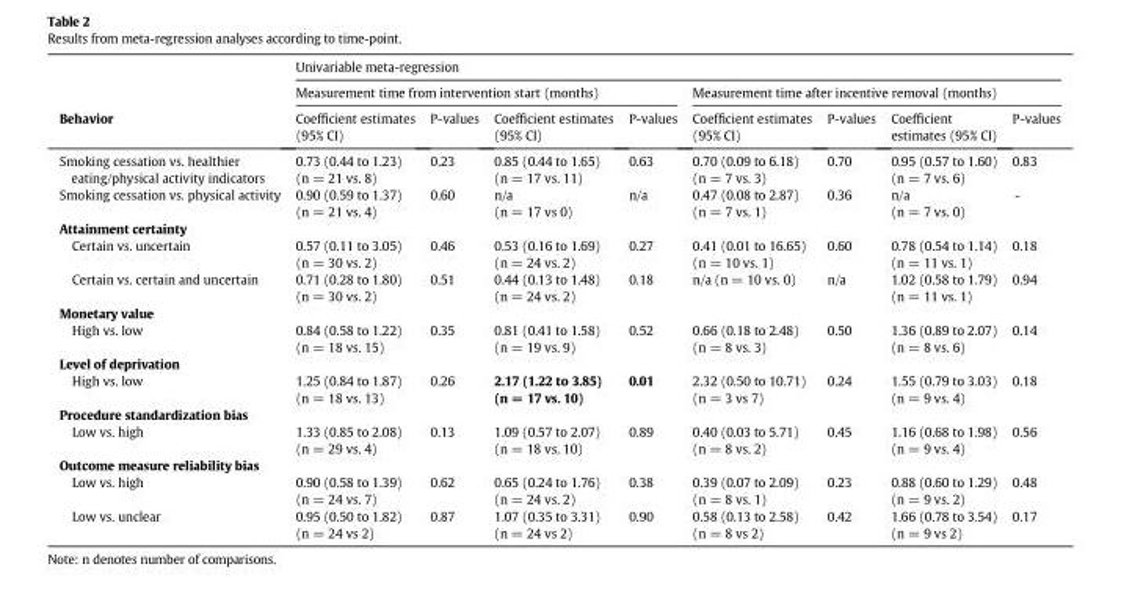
<table><thead><tr><td rowspan="3">Behavior</td><td colspan="8">Univariable meta-regression</td></tr><tr><td colspan="4">Measurement time from intervention start (months)</td><td colspan="4">Measurement time after incentive removal (months)</td></tr><tr><td>Coefficient estimates (95% CI)</td><td>P-values</td><td>Coefficient estimates (95% CI)</td><td>P-values</td><td>Coefficient estimates (95% CI)</td><td>P-values</td><td>Coefficient estimates (95% CI)</td><td>P-values</td></tr></thead><tbody><tr><td>Smoking cessation vs. healthier eating/physical activity indicators</td><td>0.73 (0.44 to 1.23) (n = 21 vs. 8)</td><td>0.23</td><td>0.85 (0.44 to 1.65) (n = 17 vs. 11)</td><td>0.63</td><td>0.70 (0.09 to 6.18) (n = 7 vs. 3)</td><td>0.70</td><td>0.95 (0.57 to 1.60) (n = 7 vs. 6)</td><td>0.83</td></tr><tr><td>Smoking cessation vs. physical activity</td><td>0.90 (0.59 to 1.37) (n = 21 vs. 4)</td><td>0.60</td><td>n/a (n = 17 vs 0)</td><td>n/a</td><td>0.47 (0.08 to 2.87) (n = 7 vs. 1)</td><td>0.36</td><td>n/a (n = 7 vs. 0)</td><td>-</td></tr><tr><td colspan="9">Attainment certainty</td></tr><tr><td>Certain vs. uncertain</td><td>0.57 (0.11 to 3.05) (n = 30 vs. 2)</td><td>0.46</td><td>0.53 (0.16 to 1.69) (n = 24 vs. 2)</td><td>0.27</td><td>0.41 (0.01 to 16.65) (n = 10 vs. 1)</td><td>0.60</td><td>0.78 (0.54 to 1.14) (n = 11 vs. 1)</td><td>0.18</td></tr><tr><td>Certain vs. certain and uncertain</td><td>0.71 (0.28 to 1.80) (n = 30 vs. 2)</td><td>0.51</td><td>0.44 (0.13 to 1.48) (n = 24 vs. 2)</td><td>0.18</td><td>n/a (n = 10 vs. 0)</td><td>n/a</td><td>1.02 (0.58 to 1.79) (n = 11 vs. 1)</td><td>0.94</td></tr><tr><td colspan="9">Monetary value</td></tr><tr><td>High vs. low</td><td>0.84 (0.58 to 1.22) (n = 18 vs. 15)</td><td>0.35</td><td>0.81 (0.41 to 1.58) (n = 19 vs. 9)</td><td>0.52</td><td>0.66 (0.18 to 2.48) (n = 8 vs. 3)</td><td>0.50</td><td>1.36 (0.89 to 2.07) (n = 8 vs. 6)</td><td>0.14</td></tr><tr><td colspan="9">Level of deprivation</td></tr><tr><td>High vs. low</td><td>1.25 (0.84 to 1.87) (n = 18 vs. 13)</td><td>0.26</td><td>2.17 (1.22 to 3.85) (n = 17 vs. 10)</td><td>0.01</td><td>2.32 (0.50 to 10.71) (n = 3 vs 7)</td><td>0.24</td><td>1.55 (0.79 to 3.03) (n = 9 vs. 4)</td><td>0.18</td></tr><tr><td colspan="9">Procedure standardization bias</td></tr><tr><td>Low vs. high</td><td>1.33 (0.85 to 2.08) (n = 29 vs. 4)</td><td>0.13</td><td>1.09 (0.57 to 2.07) (n = 18 vs. 10)</td><td>0.89</td><td>0.40 (0.03 to 5.71) (n = 8 vs. 2)</td><td>0.45</td><td>1.16 (0.68 to 1.98) (n = 9 vs. 4)</td><td>0.56</td></tr><tr><td colspan="9">Outcome measure reliability bias</td></tr><tr><td>Low vs. high</td><td>0.90 (0.58 to 1.39) (n = 24 vs. 7)</td><td>0.62</td><td>0.65 (0.24 to 1.76) (n = 24 vs. 2)</td><td>0.38</td><td>0.39 (0.07 to 2.09) (n = 8 vs. 1)</td><td>0.23</td><td>0.88 (0.60 to 1.29) (n = 9 vs. 2)</td><td>0.48</td></tr><tr><td>Low vs. unclear</td><td>0.95 (0.50 to 1.82) (n = 24 vs 2)</td><td>0.87</td><td>1.07 (0.35 to 3.31) (n = 24 vs 2)</td><td>0.90</td><td>0.58 (0.13 to 2.58) (n = 8 vs 2)</td><td>0.42</td><td>1.66 (0.78 to 3.54) (n = 9 vs 2)</td><td>0.17</td></tr></tbody></table>